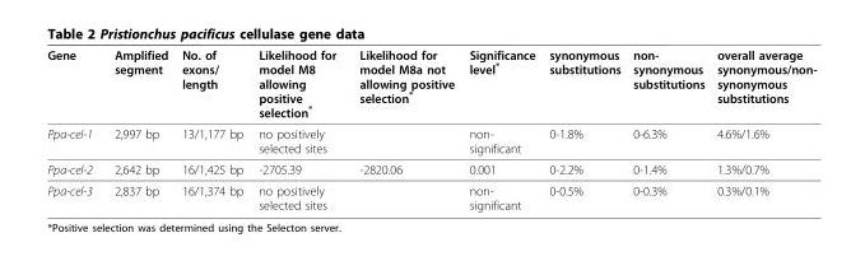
<table><thead><tr><td>Gene</td><td>Amplified segment</td><td>No. of exons/ length</td><td>Likelihood for model M8 allowing positive selection*</td><td>Likelihood for model M8a not allowing positive selection*</td><td>Significance level*</td><td>synonymous substitutions</td><td>non- synonymous substitutions</td><td>overall average synonymous/non- synonymous substitutions</td></tr></thead><tbody><tr><td>Ppa-cel-1</td><td>2,997 bp</td><td>13/1,177 bp</td><td>no positively selected sites</td><td></td><td>non- significant</td><td>0-1.8%</td><td>0-6.3%</td><td>4.6%/1.6%</td></tr><tr><td>Ppa-cel-2</td><td>2,642 bp</td><td>16/1,425 bp</td><td>-2705.39</td><td>-2820.06</td><td>0.001</td><td>0-2.2%</td><td>0-1.4%</td><td>1.3%/0.7%</td></tr><tr><td>Ppa-cel-3</td><td>2,837 bp</td><td>16/1,374 bp</td><td>no positively selected sites</td><td></td><td>non- significant</td><td>0-0.5%</td><td>0-0.3%</td><td>0.3%/0.1%</td></tr></tbody></table>